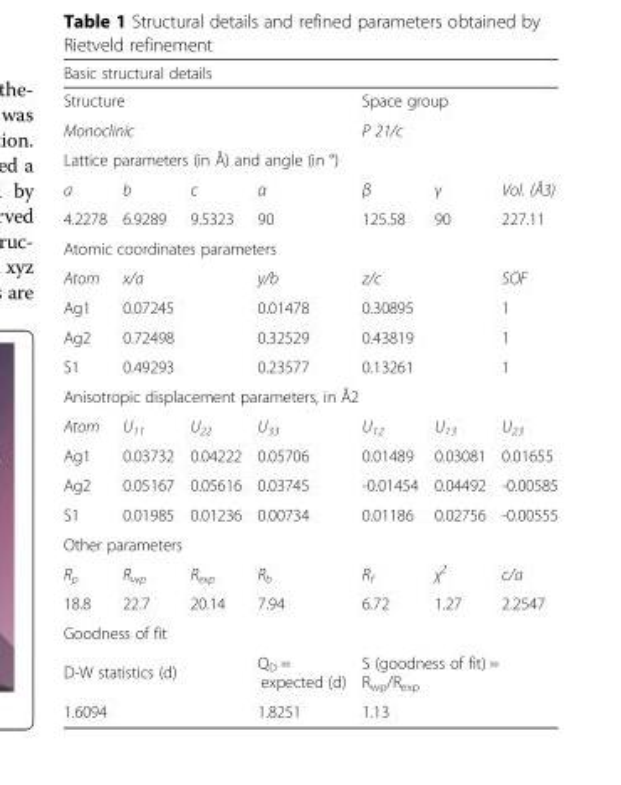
<table><tbody><tr><td colspan="7">Basic structural details</td></tr><tr><td colspan="4">Structure</td><td colspan="3">Space group</td></tr><tr><td colspan="4">Monoclinic</td><td colspan="3">P 21/c</td></tr><tr><td colspan="7">Lattice parameters (in Å) and angle (in °)</td></tr><tr><td>a</td><td>b</td><td>c</td><td>α</td><td>β</td><td>γ</td><td>Vol. (Å3)</td></tr><tr><td>4.2278</td><td>6.9289</td><td>9.5323</td><td>90</td><td>125.58</td><td>90</td><td>227.11</td></tr><tr><td colspan="7">Atomic coordinates parameters</td></tr><tr><td>Atom</td><td colspan="2">x/a</td><td>y/b</td><td colspan="2">z/c</td><td>SOF</td></tr><tr><td>Ag1</td><td colspan="2">0.07245</td><td>0.01478</td><td colspan="2">0.30895</td><td>1</td></tr><tr><td>Ag2</td><td colspan="2">0.72498</td><td>0.32529</td><td colspan="2">0.43819</td><td>1</td></tr><tr><td>S1</td><td colspan="2">0.49293</td><td>0.23577</td><td colspan="2">0.13261</td><td>1</td></tr><tr><td colspan="7">Anisotropic displacement parameters, in Å2</td></tr><tr><td>Atom</td><td>U<sub>11</sub></td><td>U<sub>22</sub></td><td>U<sub>33</sub></td><td>U<sub>12</sub></td><td>U<sub>13</sub></td><td>U<sub>23</sub></td></tr><tr><td>Ag1</td><td>0.03732</td><td>0.04222</td><td>0.05706</td><td>0.01489</td><td>0.03081</td><td>0.01655</td></tr><tr><td>Ag2</td><td>0.05167</td><td>0.05616</td><td>0.03745</td><td>-0.01454</td><td>0.04492</td><td>-0.00585</td></tr><tr><td>S1</td><td>0.01985</td><td>0.01236</td><td>0.00734</td><td>0.01186</td><td>0.02756</td><td>-0.00555</td></tr><tr><td colspan="7">Other parameters</td></tr><tr><td>R<sub>p</sub></td><td>R<sub>wp</sub></td><td>R<sub>exp</sub></td><td>R<sub>b</sub></td><td>R<sub>f</sub></td><td>χ<sup>2</sup></td><td>c/a</td></tr><tr><td>18.8</td><td>22.7</td><td>20.14</td><td>7.94</td><td>6.72</td><td>1.27</td><td>2.2547</td></tr><tr><td colspan="7">Goodness of fit</td></tr><tr><td colspan="3">D-W statistics (d)</td><td>Q<sub>D</sub> = expected (d)</td><td colspan="3">S (goodness of fit) = R<sub>wp</sub>/R<sub>exp</sub></td></tr><tr><td colspan="3">1.6094</td><td>1.8251</td><td colspan="3">1.13</td></tr></tbody></table>